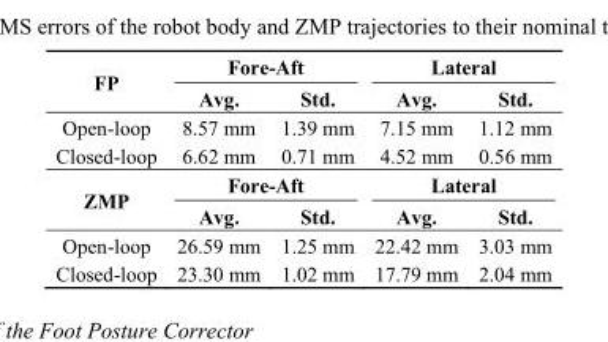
<table><tbody><tr><td rowspan="2">FP</td><td colspan="2">Fore-Aft</td><td colspan="2">Lateral</td></tr><tr><td>Avg.</td><td>Std.</td><td>Avg.</td><td>Std.</td></tr><tr><td>Open-loop</td><td>8.57 mm</td><td>1.39 mm</td><td>7.15 mm</td><td>1.12 mm</td></tr><tr><td>Closed-loop</td><td>6.62 mm</td><td>0.71 mm</td><td>4.52 mm</td><td>0.56 mm</td></tr><tr><td rowspan="2">ZMP</td><td colspan="2">Fore-Aft</td><td colspan="2">Lateral</td></tr><tr><td>Avg.</td><td>Std.</td><td>Avg.</td><td>Std.</td></tr><tr><td>Open-loop</td><td>26.59 mm</td><td>1.25 mm</td><td>22.42 mm</td><td>3.03 mm</td></tr><tr><td>Closed-loop</td><td>23.30 mm</td><td>1.02 mm</td><td>17.79 mm</td><td>2.04 mm</td></tr></tbody></table>